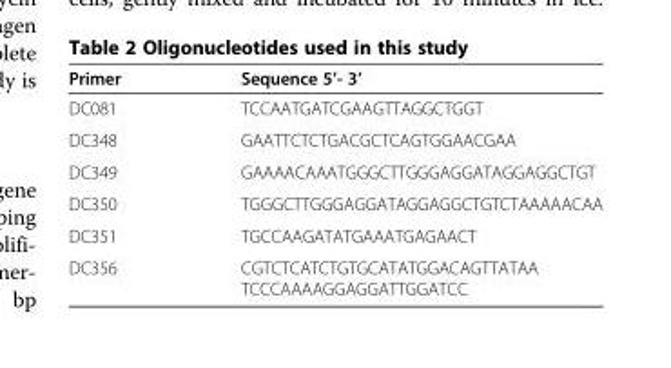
<table><thead><tr><td>Primer</td><td>Sequence 5’- 3’</td></tr></thead><tbody><tr><td>DC081</td><td>TCCAATGATCGAAGTTAGGCTGGT</td></tr><tr><td>DC348</td><td>GAATTCTCTGACGCTCAGTGGAACGAA</td></tr><tr><td>DC349</td><td>GAAAACAAATGGGCTTGGGAGGATAGGAGGCTGT</td></tr><tr><td>DC350</td><td>TGGGCTTGGGAGGATAGGAGGCTGTCTAAAAACAA</td></tr><tr><td>DC351</td><td>TGCCAAGATATGAAATGAGAACT</td></tr><tr><td>DC356</td><td>CGTCTCATCTGTGCATATGGACAGTTATAA TCCCAAAAGGAGGATTGGATCC</td></tr></tbody></table>